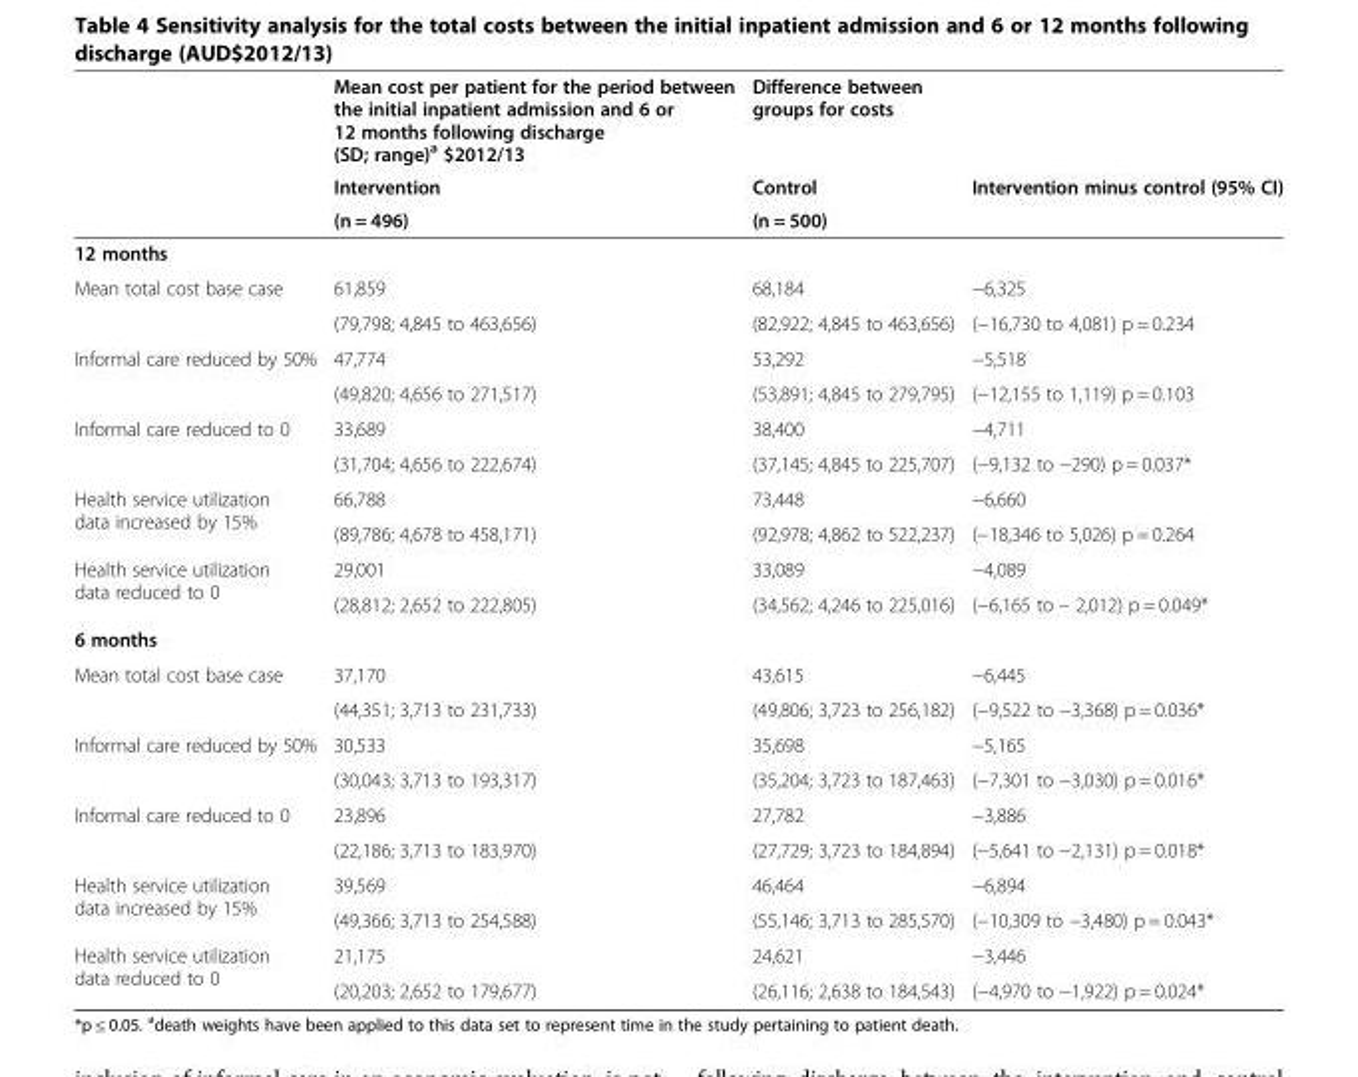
<table><thead><tr><td rowspan="3"></td><td rowspan="3">Mean cost per patient for the period between the initial inpatient admission and 6 or 12 months following discharge (SD; range)<sup>a</sup> $2012/13 Intervention (n = 496)</td><td rowspan="3">Difference between groups for costs Control (n = 500)</td><td rowspan="3">Intervention minus control (95% CI)</td></tr><tr></tr><tr></tr></thead><tbody><tr><td colspan="4">12 months</td></tr><tr><td rowspan="2">Mean total cost base case</td><td>61,859</td><td>68,184</td><td>−6,325</td></tr><tr><td>(79,798; 4,845 to 463,656)</td><td>(82,922; 4,845 to 463,656)</td><td>(−16,730 to 4,081) p = 0.234</td></tr><tr><td rowspan="2">Informal care reduced by 50%</td><td>47,774</td><td>53,292</td><td>−5,518</td></tr><tr><td>(49,820; 4,656 to 271,517)</td><td>(53,891; 4,845 to 279,795)</td><td>(−12,155 to 1,119) p = 0.103</td></tr><tr><td rowspan="2">Informal care reduced to 0</td><td>33,689</td><td>38,400</td><td>−4,711</td></tr><tr><td>(31,704; 4,656 to 222,674)</td><td>(37,145; 4,845 to 225,707)</td><td>(−9,132 to −290) p = 0.037*</td></tr><tr><td rowspan="2">Health service utilization data increased by 15%</td><td>66,788</td><td>73,448</td><td>−6,660</td></tr><tr><td>(89,786; 4,678 to 458,171)</td><td>(92,978; 4,862 to 522,237)</td><td>(−18,346 to 5,026) p = 0.264</td></tr><tr><td rowspan="2">Health service utilization data reduced to 0</td><td>29,001</td><td>33,089</td><td>−4,089</td></tr><tr><td>(28,812; 2,652 to 222,805)</td><td>(34,562; 4,246 to 225,016)</td><td>(−6,165 to – 2,012) p = 0.049*</td></tr><tr><td colspan="4">6 months</td></tr><tr><td rowspan="2">Mean total cost base case</td><td>37,170</td><td>43,615</td><td>−6,445</td></tr><tr><td>(44,351; 3,713 to 231,733)</td><td>(49,806; 3,723 to 256,182)</td><td>(−9,522 to −3,368) p = 0.036*</td></tr><tr><td rowspan="2">Informal care reduced by 50%</td><td>30,533</td><td>35,698</td><td>−5,165</td></tr><tr><td>(30,043; 3,713 to 193,317)</td><td>(35,204; 3,723 to 187,463)</td><td>(−7,301 to −3,030) p = 0.016*</td></tr><tr><td rowspan="2">Informal care reduced to 0</td><td>23,896</td><td>27,782</td><td>−3,886</td></tr><tr><td>(22,186; 3,713 to 183,970)</td><td>(27,729; 3,723 to 184,894)</td><td>(−5,641 to −2,131) p = 0.018*</td></tr><tr><td rowspan="2">Health service utilization data increased by 15%</td><td>39,569</td><td>46,464</td><td>−6,894</td></tr><tr><td>(49,366; 3,713 to 254,588)</td><td>(55,146; 3,713 to 285,570)</td><td>(−10,309 to −3,480) p = 0.043*</td></tr><tr><td rowspan="2">Health service utilization data reduced to 0</td><td>21,175</td><td>24,621</td><td>−3,446</td></tr><tr><td>(20,203; 2,652 to 179,677)</td><td>(26,116; 2,638 to 184,543)</td><td>(−4,970 to −1,922) p = 0.024*</td></tr></tbody></table>